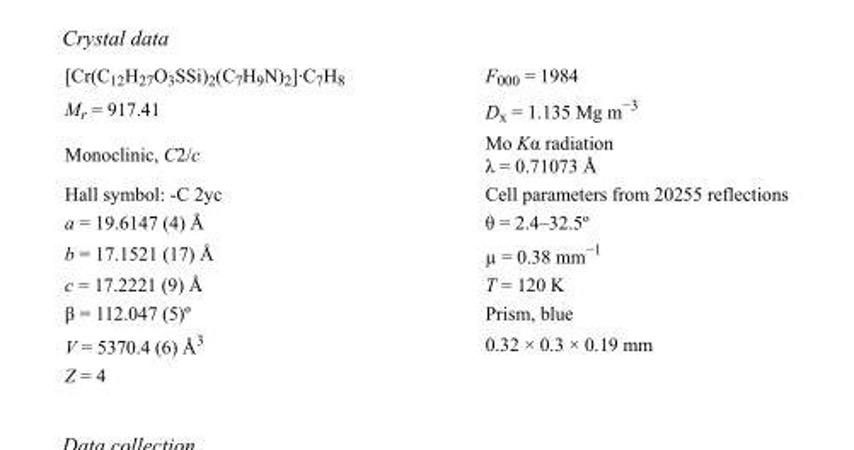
<table><tbody><tr><td>[Cr(C<sub>12</sub>H<sub>27</sub>O<sub>3</sub>SSi)<sub>2</sub>(C<sub>7</sub>H<sub>9</sub>N)<sub>2</sub>]·C<sub>7</sub>H<sub>8</sub></td><td>F000 = 1984</td></tr><tr><td>M<sub>r</sub> = 917.41</td><td>D<sub>x</sub> = 1.135 Mg m<sup>−3</sup></td></tr><tr><td>Monoclinic, C2/c</td><td>Mo Kα radiation λ = 0.71073 Å</td></tr><tr><td>Hall symbol: -C 2yc</td><td>Cell parameters from 20255 reflections</td></tr><tr><td>a = 19.6147 (4) Å</td><td>θ = 2.4–32.5º</td></tr><tr><td>b = 17.1521 (17) Å</td><td>µ = 0.38 mm<sup>−1</sup></td></tr><tr><td>c = 17.2221 (9) Å</td><td>T = 120 K</td></tr><tr><td>β = 112.047 (5)º</td><td>Prism, blue</td></tr><tr><td>V = 5370.4 (6) Å<sup>3</sup></td><td>0.32 × 0.3 × 0.19 mm</td></tr><tr><td>Z = 4</td><td></td></tr></tbody></table>